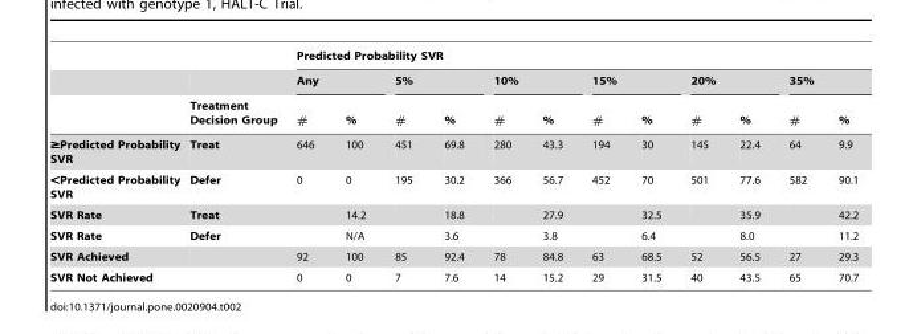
<table><thead><tr><td rowspan="3"></td><td rowspan="3">Treatment Decision Group</td><td colspan="12">Predicted Probability SVR</td></tr><tr><td colspan="2">Any</td><td colspan="2">5%</td><td colspan="2">10%</td><td colspan="2">15%</td><td colspan="2">20%</td><td colspan="2">35%</td></tr><tr><td>#</td><td>%</td><td>#</td><td>%</td><td>#</td><td>%</td><td>#</td><td>%</td><td>#</td><td>%</td><td>#</td><td>%</td></tr></thead><tbody><tr><td>≥Predicted Probability SVR</td><td>Treat</td><td>646</td><td>100</td><td>451</td><td>69.8</td><td>280</td><td>43.3</td><td>194</td><td>30</td><td>145</td><td>22.4</td><td>64</td><td>9.9</td></tr><tr><td>&lt;Predicted Probability SVR</td><td>Defer</td><td>0</td><td>0</td><td>195</td><td>30.2</td><td>366</td><td>56.7</td><td>452</td><td>70</td><td>501</td><td>77.6</td><td>582</td><td>90.1</td></tr><tr><td>SVR Rate</td><td>Treat</td><td></td><td>14.2</td><td></td><td>18.8</td><td></td><td>27.9</td><td></td><td>32.5</td><td></td><td>35.9</td><td></td><td>42.2</td></tr><tr><td>SVR Rate</td><td>Defer</td><td></td><td>N/A</td><td></td><td>3.6</td><td></td><td>3.8</td><td></td><td>6.4</td><td></td><td>8.0</td><td></td><td>11.2</td></tr><tr><td>SVR Achieved</td><td></td><td>92</td><td>100</td><td>85</td><td>92.4</td><td>78</td><td>84.8</td><td>63</td><td>68.5</td><td>52</td><td>56.5</td><td>27</td><td>29.3</td></tr><tr><td>SVR Not Achieved</td><td></td><td>0</td><td>0</td><td>7</td><td>7.6</td><td>14</td><td>15.2</td><td>29</td><td>31.5</td><td>40</td><td>43.5</td><td>65</td><td>70.7</td></tr></tbody></table>